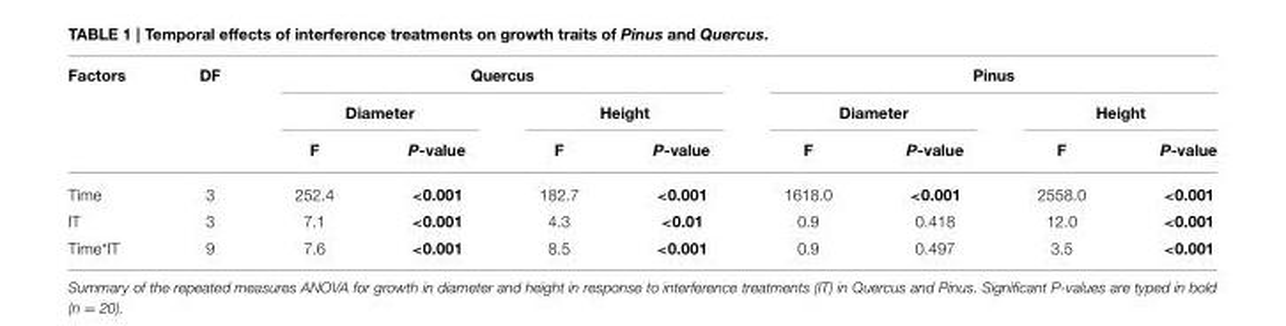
<table><thead><tr><td rowspan="3">Factors</td><td rowspan="3">DF</td><td colspan="4">Quercus</td><td colspan="4">Pinus</td></tr><tr><td colspan="2">Diameter</td><td colspan="2">Height</td><td colspan="2">Diameter</td><td colspan="2">Height</td></tr><tr><td>F</td><td>P-value</td><td>F</td><td>P-value</td><td>F</td><td>P-value</td><td>F</td><td>P-value</td></tr></thead><tbody><tr><td>Time</td><td>3</td><td>252.4</td><td>&lt;0.001</td><td>182.7</td><td>&lt;0.001</td><td>1618.0</td><td>&lt;0.001</td><td>2558.0</td><td>&lt;0.001</td></tr><tr><td>IT</td><td>3</td><td>7.1</td><td>&lt;0.001</td><td>4.3</td><td>&lt;0.01</td><td>0.9</td><td>0.418</td><td>12.0</td><td>&lt;0.001</td></tr><tr><td>Time*IT</td><td>9</td><td>7.6</td><td>&lt;0.001</td><td>8.5</td><td>&lt;0.001</td><td>0.9</td><td>0.497</td><td>3.5</td><td>&lt;0.001</td></tr></tbody></table>